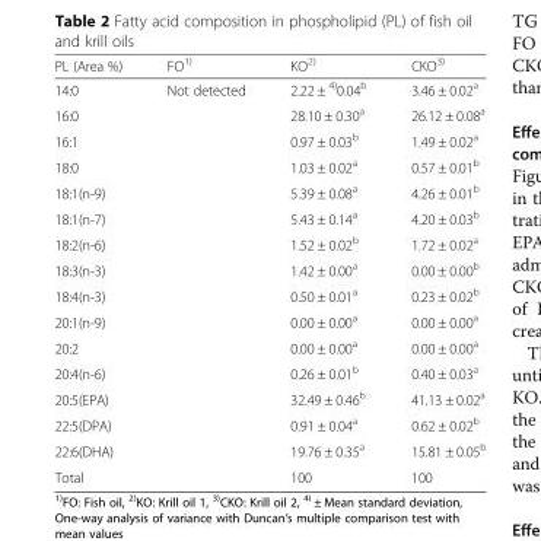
<table><thead><tr><td>PL (Area %)</td><td>FO<sup>1)</sup></td><td>KO<sup>2)</sup></td><td>CKO<sup>3)</sup></td></tr></thead><tbody><tr><td>14:0</td><td rowspan="16">Not detected</td><td>2.22 ± <sup>4)</sup>0.04<sup>b</sup></td><td>3.46 ± 0.02<sup>a</sup></td></tr><tr><td>16:0</td><td>28.10 ± 0.30<sup>a</sup></td><td>26.12 ± 0.08<sup>a</sup></td></tr><tr><td>16:1</td><td>0.97 ± 0.03<sup>b</sup></td><td>1.49 ± 0.02<sup>a</sup></td></tr><tr><td>18:0</td><td>1.03 ± 0.02<sup>a</sup></td><td>0.57 ± 0.01<sup>b</sup></td></tr><tr><td>18:1(n-9)</td><td>5.39 ± 0.08<sup>a</sup></td><td>4.26 ± 0.01<sup>b</sup></td></tr><tr><td>18:1(n-7)</td><td>5.43 ± 0.14<sup>a</sup></td><td>4.20 ± 0.03<sup>b</sup></td></tr><tr><td>18:2(n-6)</td><td>1.52 ± 0.02<sup>b</sup></td><td>1.72 ± 0.02<sup>a</sup></td></tr><tr><td>18:3(n-3)</td><td>1.42 ± 0.00<sup>a</sup></td><td>0.00 ± 0.00<sup>b</sup></td></tr><tr><td>18:4(n-3)</td><td>0.50 ± 0.01<sup>a</sup></td><td>0.23 ± 0.02<sup>b</sup></td></tr><tr><td>20:1(n-9)</td><td>0.00 ± 0.00<sup>a</sup></td><td>0.00 ± 0.00<sup>a</sup></td></tr><tr><td>20:2</td><td>0.00 ± 0.00<sup>a</sup></td><td>0.00 ± 0.00<sup>a</sup></td></tr><tr><td>20:4(n-6)</td><td>0.26 ± 0.01<sup>b</sup></td><td>0.40 ± 0.03<sup>a</sup></td></tr><tr><td>20:5(EPA)</td><td>32.49 ± 0.46<sup>b</sup></td><td>41.13 ± 0.02<sup>a</sup></td></tr><tr><td>22:5(DPA)</td><td>0.91 ± 0.04<sup>a</sup></td><td>0.62 ± 0.02<sup>b</sup></td></tr><tr><td>22:6(DHA)</td><td>19.76 ± 0.35<sup>a</sup></td><td>15.81 ± 0.05<sup>b</sup></td></tr><tr><td>Total</td><td>100</td><td>100</td></tr></tbody></table>